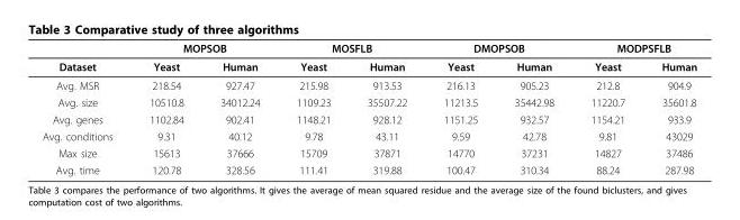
<table><thead><tr><td rowspan="2">Dataset</td><td colspan="2">MOPSOB</td><td colspan="2">MOSFLB</td><td colspan="2">DMOPSOB</td><td colspan="2">MODPSFLB</td></tr><tr><td>Yeast</td><td>Human</td><td>Yeast</td><td>Human</td><td>Yeast</td><td>Human</td><td>Yeast</td><td>Human</td></tr></thead><tbody><tr><td>Avg. MSR</td><td>218.54</td><td>927.47</td><td>215.98</td><td>913.53</td><td>216.13</td><td>905.23</td><td>212.8</td><td>904.9</td></tr><tr><td>Avg. size</td><td>10510.8</td><td>34012.24</td><td>1109.23</td><td>35507.22</td><td>11213.5</td><td>35442.98</td><td>11220.7</td><td>35601.8</td></tr><tr><td>Avg. genes</td><td>1102.84</td><td>902.41</td><td>1148.21</td><td>928.12</td><td>1151.25</td><td>932.57</td><td>1154.21</td><td>933.9</td></tr><tr><td>Avg. conditions</td><td>9.31</td><td>40.12</td><td>9.78</td><td>43.11</td><td>9.59</td><td>42.78</td><td>9.81</td><td>43029</td></tr><tr><td>Max size</td><td>15613</td><td>37666</td><td>15709</td><td>37871</td><td>14770</td><td>37231</td><td>14827</td><td>37486</td></tr><tr><td>Avg. time</td><td>120.78</td><td>328.56</td><td>111.41</td><td>319.88</td><td>100.47</td><td>310.34</td><td>88.24</td><td>287.98</td></tr></tbody></table>